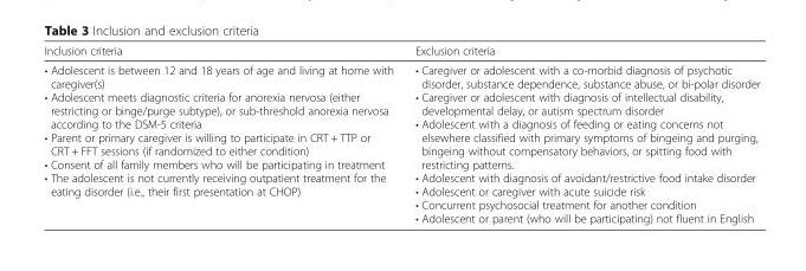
<table><thead><tr><td>Inclusion criteria</td><td>Exclusion criteria</td></tr></thead><tbody><tr><td>• Adolescent is between 12 and 18 years of age and living at home with caregiver(s) • Adolescent meets diagnostic criteria for anorexia nervosa (either restricting or binge/purge subtype), or sub-threshold anorexia nervosa according to the DSM-5 criteria • Parent or primary caregiver is willing to participate in CRT + TTP or CRT + FFT sessions (if randomized to either condition) • Consent of all family members who will be participating in treatment • The adolescent is not currently receiving outpatient treatment for the eating disorder (i.e., their first presentation at CHOP)</td><td>• Caregiver or adolescent with a co-morbid diagnosis of psychotic disorder, substance dependence, substance abuse, or bi-polar disorder • Caregiver or adolescent with diagnosis of intellectual disability, developmental delay, or autism spectrum disorder • Adolescent with a diagnosis of feeding or eating concerns not elsewhere classified with primary symptoms of bingeing and purging, bingeing without compensatory behaviors, or spitting food with restricting patterns. • Adolescent with diagnosis of avoidant/restrictive food intake disorder • Adolescent or caregiver with acute suicide risk • Concurrent psychosocial treatment for another condition • Adolescent or parent (who will be participating) not fluent in English</td></tr></tbody></table>